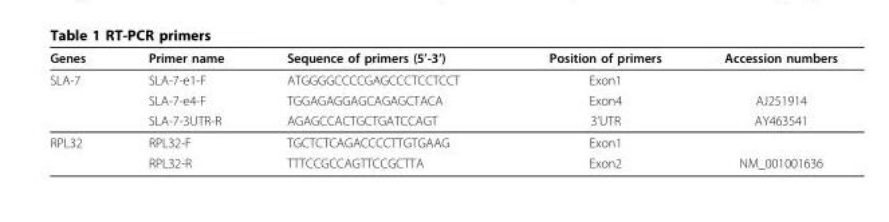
<table><thead><tr><td>Genes</td><td>Primer name</td><td>Sequence of primers (5’-3’)</td><td>Position of primers</td><td>Accession numbers</td></tr></thead><tbody><tr><td rowspan="3">SLA-7</td><td>SLA-7-e1-F</td><td>ATGGGGCCCCGAGCCCTCCTCCT</td><td>Exon1</td><td></td></tr><tr><td>SLA-7-e4-F</td><td>TGGAGAGGAGCAGAGCTACA</td><td>Exon4</td><td>AJ251914</td></tr><tr><td>SLA-7-3UTR-R</td><td>AGAGCCACTGCTGATCCAGT</td><td>3’UTR</td><td>AY463541</td></tr><tr><td rowspan="2">RPL32</td><td>RPL32-F</td><td>TGCTCTCAGACCCCTTGTGAAG</td><td>Exon1</td><td></td></tr><tr><td>RPL32-R</td><td>TTTCCGCCAGTTCCGCTTA</td><td>Exon2</td><td>NM_001001636</td></tr></tbody></table>